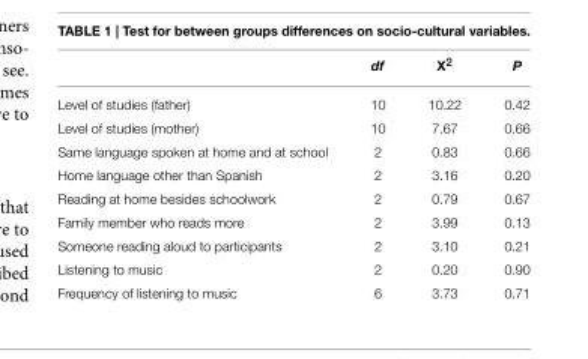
<table><thead><tr><td></td><td>df</td><td>X<sup>2</sup></td><td>P</td></tr></thead><tbody><tr><td>Level of studies (father)</td><td>10</td><td>10.22</td><td>0.42</td></tr><tr><td>Level of studies (mother)</td><td>10</td><td>7.67</td><td>0.66</td></tr><tr><td>Same language spoken at home and at school</td><td>2</td><td>0.83</td><td>0.66</td></tr><tr><td>Home language other than Spanish</td><td>2</td><td>3.16</td><td>0.20</td></tr><tr><td>Reading at home besides schoolwork</td><td>2</td><td>0.79</td><td>0.67</td></tr><tr><td>Family member who reads more</td><td>2</td><td>3.99</td><td>0.13</td></tr><tr><td>Someone reading aloud to participants</td><td>2</td><td>3.10</td><td>0.21</td></tr><tr><td>Listening to music</td><td>2</td><td>0.20</td><td>0.90</td></tr><tr><td>Frequency of listening to music</td><td>6</td><td>3.73</td><td>0.71</td></tr></tbody></table>